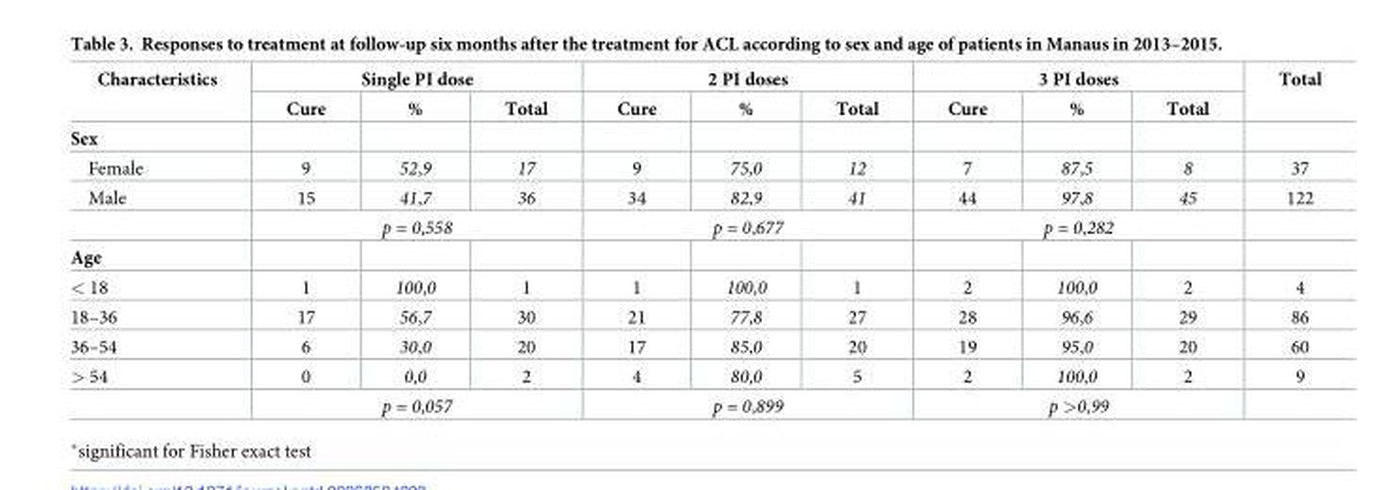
<table><thead><tr><td rowspan="2">Characteristics</td><td colspan="3">Single PI dose</td><td colspan="3">2 PI doses</td><td colspan="3">3 PI doses</td><td rowspan="2">Total</td></tr><tr><td>Cure</td><td>%</td><td>Total</td><td>Cure</td><td>%</td><td>Total</td><td>Cure</td><td>%</td><td>Total</td></tr></thead><tbody><tr><td colspan="11">Sex</td></tr><tr><td>Female</td><td>9</td><td>52,9</td><td>17</td><td>9</td><td>75,0</td><td>12</td><td>7</td><td>87,5</td><td>8</td><td>37</td></tr><tr><td rowspan="2">Male</td><td>15</td><td>41,7</td><td>36</td><td>34</td><td>82,9</td><td>41</td><td>44</td><td>97,8</td><td>45</td><td>122</td></tr><tr><td colspan="3">p = 0,558</td><td colspan="3">p = 0,677</td><td colspan="3">p = 0,282</td><td></td></tr><tr><td colspan="11">Age</td></tr><tr><td>&lt; 18</td><td>1</td><td>100,0</td><td>1</td><td>1</td><td>100,0</td><td>1</td><td>2</td><td>100,0</td><td>2</td><td>4</td></tr><tr><td>18–36</td><td>17</td><td>56,7</td><td>30</td><td>21</td><td>77,8</td><td>27</td><td>28</td><td>96,6</td><td>29</td><td>86</td></tr><tr><td>36–54</td><td>6</td><td>30,0</td><td>20</td><td>17</td><td>85,0</td><td>20</td><td>19</td><td>95,0</td><td>20</td><td>60</td></tr><tr><td rowspan="2">&gt; 54</td><td>0</td><td>0,0</td><td>2</td><td>4</td><td>80,0</td><td>5</td><td>2</td><td>100,0</td><td>2</td><td>9</td></tr><tr><td colspan="3">p = 0,057</td><td colspan="3">p = 0,899</td><td colspan="3">p &gt;0,99</td><td></td></tr></tbody></table>